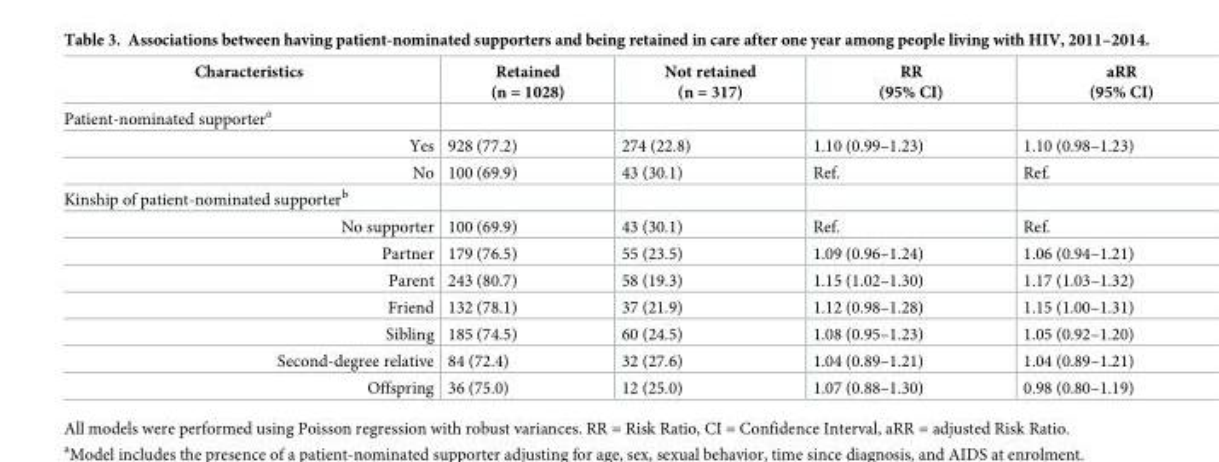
<table><thead><tr><td>Characteristics</td><td>Retained (n = 1028)</td><td>Not retained (n = 317)</td><td>RR (95% CI)</td><td>aRR (95% CI)</td></tr></thead><tbody><tr><td colspan="5">Patient-nominated supporter<sup>a</sup></td></tr><tr><td>Yes</td><td>928 (77.2)</td><td>274 (22.8)</td><td>1.10 (0.99–1.23)</td><td>1.10 (0.98–1.23)</td></tr><tr><td>No</td><td>100 (69.9)</td><td>43 (30.1)</td><td>Ref.</td><td>Ref.</td></tr><tr><td colspan="5">Kinship of patient-nominated supporter<sup>b</sup></td></tr><tr><td>No supporter</td><td>100 (69.9)</td><td>43 (30.1)</td><td>Ref.</td><td>Ref.</td></tr><tr><td>Partner</td><td>179 (76.5)</td><td>55 (23.5)</td><td>1.09 (0.96–1.24)</td><td>1.06 (0.94–1.21)</td></tr><tr><td>Parent</td><td>243 (80.7)</td><td>58 (19.3)</td><td>1.15 (1.02–1.30)</td><td>1.17 (1.03–1.32)</td></tr><tr><td>Friend</td><td>132 (78.1)</td><td>37 (21.9)</td><td>1.12 (0.98–1.28)</td><td>1.15 (1.00–1.31)</td></tr><tr><td>Sibling</td><td>185 (74.5)</td><td>60 (24.5)</td><td>1.08 (0.95–1.23)</td><td>1.05 (0.92–1.20)</td></tr><tr><td>Second-degree relative</td><td>84 (72.4)</td><td>32 (27.6)</td><td>1.04 (0.89–1.21)</td><td>1.04 (0.89–1.21)</td></tr><tr><td>Offspring</td><td>36 (75.0)</td><td>12 (25.0)</td><td>1.07 (0.88–1.30)</td><td>0.98 (0.80–1.19)</td></tr></tbody></table>